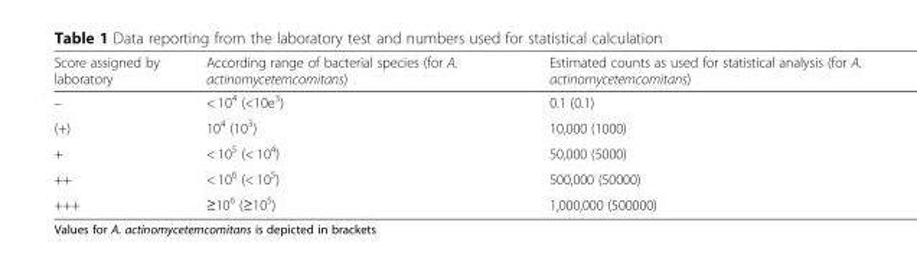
<table><thead><tr><td>Score assigned by laboratory</td><td>According range of bacterial species (for A. actinomycetemcomitans)</td><td>Estimated counts as used for statistical analysis (for A. actinomycetemcomitans)</td></tr></thead><tbody><tr><td>–</td><td>&lt; 10<sup>4</sup> (&lt;10e<sup>3</sup>)</td><td>0.1 (0.1)</td></tr><tr><td>(+)</td><td>10<sup>4</sup> (10<sup>3</sup>)</td><td>10,000 (1000)</td></tr><tr><td>+</td><td>&lt; 10<sup>5</sup> (&lt; 10<sup>4</sup>)</td><td>50,000 (5000)</td></tr><tr><td>++</td><td>&lt; 10<sup>6</sup> (&lt; 10<sup>5</sup>)</td><td>500,000 (50000)</td></tr><tr><td>+++</td><td>≥10<sup>6</sup> (≥10<sup>5</sup>)</td><td>1,000,000 (500000)</td></tr></tbody></table>